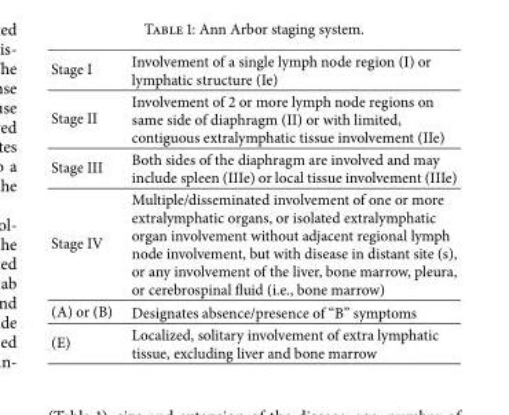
<table><tbody><tr><td>Stage I</td><td>Involvement of a single lymph node region (I) or lymphatic structure (Ie)</td></tr><tr><td>Stage II</td><td>Involvement of 2 or more lymph node regions on same side of diaphragm (II) or with limited, contiguous extralymphatic tissue involvement (IIe)</td></tr><tr><td>Stage III</td><td>Both sides of the diaphragm are involved and may include spleen (IIIe) or local tissue involvement (IIIe)</td></tr><tr><td>Stage IV</td><td>Multiple/disseminated involvement of one or more extralymphatic organs, or isolated extralymphatic organ involvement without adjacent regional lymph node involvement, but with disease in distant site (s), or any involvement of the liver, bone marrow, pleura, or cerebrospinal fluid (i.e., bone marrow)</td></tr><tr><td>(A) or (B)</td><td>Designates absence/presence of “B” symptoms</td></tr><tr><td>(E)</td><td>Localized, solitary involvement of extra lymphatic tissue, excluding liver and bone marrow</td></tr></tbody></table>